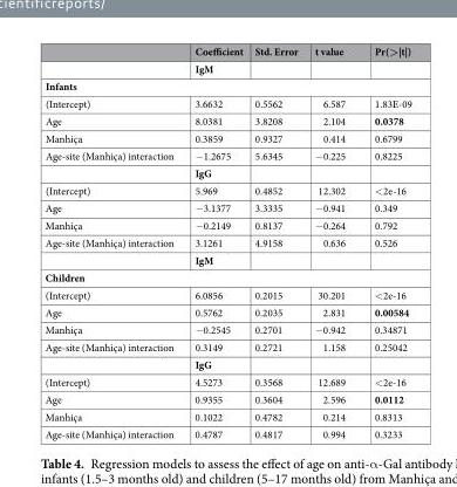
<table><thead><tr><td></td><td>Coefficient</td><td>Std. Error</td><td>t value</td><td>Pr(&gt;|t|)</td></tr></thead><tbody><tr><td></td><td>IgM</td><td></td><td></td><td></td></tr><tr><td colspan="5">Infants</td></tr><tr><td>(Intercept)</td><td>3.6632</td><td>0.5562</td><td>6.587</td><td>1.83E-09</td></tr><tr><td>Age</td><td>8.0381</td><td>3.8208</td><td>2.104</td><td>0.0378</td></tr><tr><td>Manhiça</td><td>0.3859</td><td>0.9327</td><td>0.414</td><td>0.6799</td></tr><tr><td rowspan="2">Age-site (Manhiça) interaction</td><td>−1.2675</td><td>5.6345</td><td>−0.225</td><td>0.8225</td></tr><tr><td>IgG</td><td></td><td></td><td></td></tr><tr><td>(Intercept)</td><td>5.969</td><td>0.4852</td><td>12.302</td><td>&lt;2e-16</td></tr><tr><td>Age</td><td>−3.1377</td><td>3.3335</td><td>−0.941</td><td>0.349</td></tr><tr><td>Manhiça</td><td>−0.2149</td><td>0.8137</td><td>−0.264</td><td>0.792</td></tr><tr><td rowspan="2">Age-site (Manhiça) interaction</td><td>3.1261</td><td>4.9158</td><td>0.636</td><td>0.526</td></tr><tr><td>IgM</td><td></td><td></td><td></td></tr><tr><td colspan="5">Children</td></tr><tr><td>(Intercept)</td><td>6.0856</td><td>0.2015</td><td>30.201</td><td>&lt;2e-16</td></tr><tr><td>Age</td><td>0.5762</td><td>0.2035</td><td>2.831</td><td>0.00584</td></tr><tr><td>Manhiça</td><td>−0.2545</td><td>0.2701</td><td>−0.942</td><td>0.34871</td></tr><tr><td rowspan="2">Age-site (Manhiça) interaction</td><td>0.3149</td><td>0.2721</td><td>1.158</td><td>0.25042</td></tr><tr><td>IgG</td><td></td><td></td><td></td></tr><tr><td>(Intercept)</td><td>4.5273</td><td>0.3568</td><td>12.689</td><td>&lt;2e-16</td></tr><tr><td>Age</td><td>0.9355</td><td>0.3604</td><td>2.596</td><td>0.0112</td></tr><tr><td>Manhiça</td><td>0.1022</td><td>0.4782</td><td>0.214</td><td>0.8313</td></tr><tr><td>Age-site (Manhiça) interaction</td><td>0.4787</td><td>0.4817</td><td>0.994</td><td>0.3233</td></tr></tbody></table>